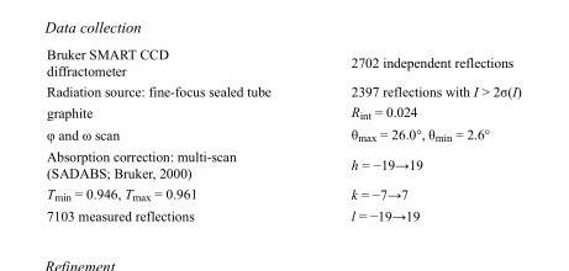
<table><tbody><tr><td>Bruker SMART CCD diffractometer</td><td>2702 independent reflections</td></tr><tr><td>Radiation source: fine-focus sealed tube</td><td>2397 reflections with I &gt; 2σ(I)</td></tr><tr><td>graphite</td><td>R<sub>int</sub> = 0.024</td></tr><tr><td>φ and ω scan</td><td>θ<sub>max</sub> = 26.0°, θ<sub>min</sub> = 2.6°</td></tr><tr><td>Absorption correction: multi-scan (SADABS; Bruker, 2000)</td><td>h = −19→19</td></tr><tr><td>T<sub>min</sub> = 0.946, T<sub>max</sub> = 0.961</td><td>k = −7→7</td></tr><tr><td>7103 measured reflections</td><td>l = −19→19</td></tr></tbody></table>